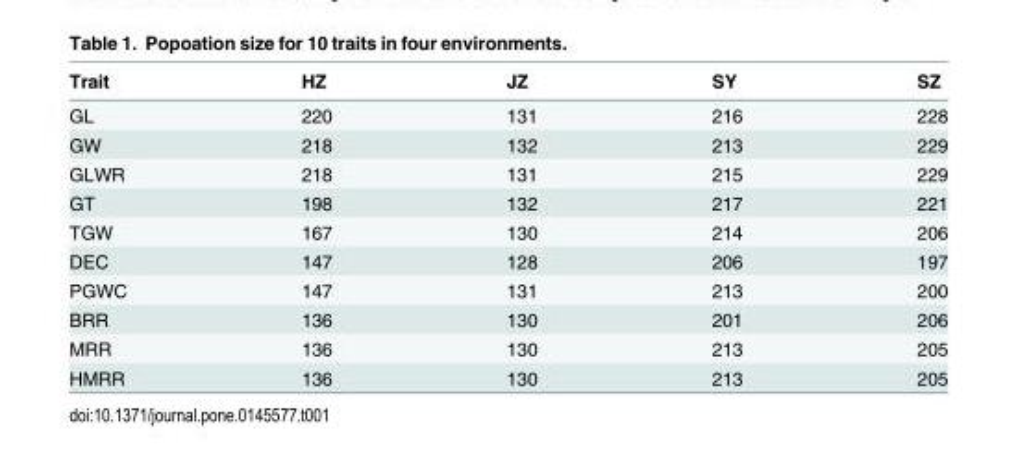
<table><thead><tr><td>Trait</td><td>HZ</td><td>JZ</td><td>SY</td><td>SZ</td></tr></thead><tbody><tr><td>GL</td><td>220</td><td>131</td><td>216</td><td>228</td></tr><tr><td>GW</td><td>218</td><td>132</td><td>213</td><td>229</td></tr><tr><td>GLWR</td><td>218</td><td>131</td><td>215</td><td>229</td></tr><tr><td>GT</td><td>198</td><td>132</td><td>217</td><td>221</td></tr><tr><td>TGW</td><td>167</td><td>130</td><td>214</td><td>206</td></tr><tr><td>DEC</td><td>147</td><td>128</td><td>206</td><td>197</td></tr><tr><td>PGWC</td><td>147</td><td>131</td><td>213</td><td>200</td></tr><tr><td>BRR</td><td>136</td><td>130</td><td>201</td><td>206</td></tr><tr><td>MRR</td><td>136</td><td>130</td><td>213</td><td>205</td></tr><tr><td>HMRR</td><td>136</td><td>130</td><td>213</td><td>205</td></tr></tbody></table>